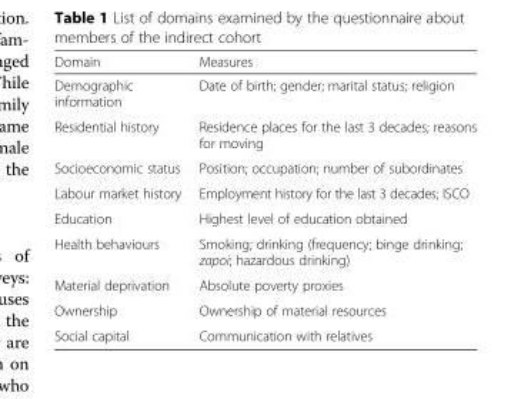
<table><thead><tr><td>Domain</td><td>Measures</td></tr></thead><tbody><tr><td>Demographic information</td><td>Date of birth; gender; marital status; religion</td></tr><tr><td>Residential history</td><td>Residence places for the last 3 decades; reasons for moving</td></tr><tr><td>Socioeconomic status</td><td>Position; occupation; number of subordinates</td></tr><tr><td>Labour market history</td><td>Employment history for the last 3 decades; ISCO</td></tr><tr><td>Education</td><td>Highest level of education obtained</td></tr><tr><td>Health behaviours</td><td>Smoking; drinking (frequency; binge drinking; zapoi; hazardous drinking)</td></tr><tr><td>Material deprivation</td><td>Absolute poverty proxies</td></tr><tr><td>Ownership</td><td>Ownership of material resources</td></tr><tr><td>Social capital</td><td>Communication with relatives</td></tr></tbody></table>